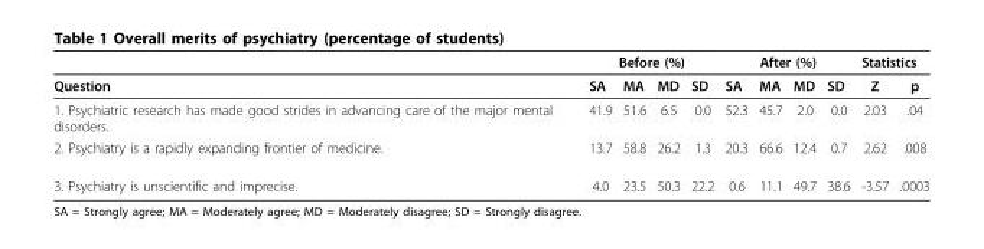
<table><thead><tr><td rowspan="2">Question</td><td colspan="4">Before (%)</td><td colspan="4">After (%)</td><td colspan="2">Statistics</td></tr><tr><td>SA</td><td>MA</td><td>MD</td><td>SD</td><td>SA</td><td>MA</td><td>MD</td><td>SD</td><td>Z</td><td>p</td></tr></thead><tbody><tr><td>1. Psychiatric research has made good strides in advancing care of the major mental disorders.</td><td>41.9</td><td>51.6</td><td>6.5</td><td>0.0</td><td>52.3</td><td>45.7</td><td>2.0</td><td>0.0</td><td>2.03</td><td>.04</td></tr><tr><td>2. Psychiatry is a rapidly expanding frontier of medicine.</td><td>13.7</td><td>58.8</td><td>26.2</td><td>1.3</td><td>20.3</td><td>66.6</td><td>12.4</td><td>0.7</td><td>2.62</td><td>.008</td></tr><tr><td>3. Psychiatry is unscientific and imprecise.</td><td>4.0</td><td>23.5</td><td>50.3</td><td>22.2</td><td>0.6</td><td>11.1</td><td>49.7</td><td>38.6</td><td>-3.57</td><td>.0003</td></tr></tbody></table>